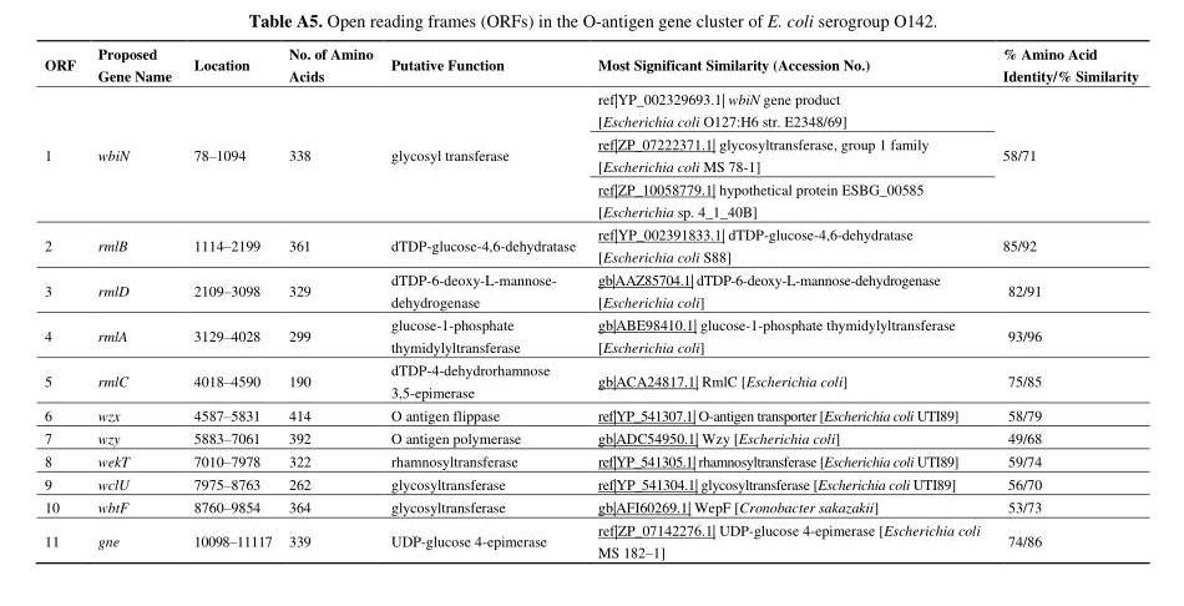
<table><thead><tr><td>ORF</td><td>Proposed Gene Name</td><td>Location</td><td>No. of Amino Acids</td><td>Putative Function</td><td>Most Significant Similarity (Accession No.)</td><td>% Amino Acid Identity/% Similarity</td></tr></thead><tbody><tr><td rowspan="3">1</td><td rowspan="3">wbiN</td><td rowspan="3">78–1094</td><td rowspan="3">338</td><td rowspan="3">glycosyl transferase</td><td>ref|YP_002329693.1| wbiN gene product [Escherichia coli O127:H6 str. E2348/69]</td><td rowspan="3">58/71</td></tr><tr><td>ref|ZP_07222371.1| glycosyltransferase, group 1 family [Escherichia coli MS 78-1]</td></tr><tr><td>ref|ZP_10058779.1| hypothetical protein ESBG_00585 [Escherichia sp. 4_1_40B]</td></tr><tr><td>2</td><td>rmlB</td><td>1114–2199</td><td>361</td><td>dTDP-glucose-4,6-dehydratase</td><td>ref|YP_002391833.1| dTDP-glucose-4,6-dehydratase [Escherichia coli S88]</td><td>85/92</td></tr><tr><td>3</td><td>rmlD</td><td>2109–3098</td><td>329</td><td>dTDP-6-deoxy-L-mannose- dehydrogenase</td><td>gb|AAZ85704.1| dTDP-6-deoxy-L-mannose-dehydrogenase [Escherichia coli]</td><td>82/91</td></tr><tr><td>4</td><td>rmlA</td><td>3129–4028</td><td>299</td><td>glucose-1-phosphate thymidylyltransferase</td><td>gb|ABE98410.1| glucose-1-phosphate thymidylyltransferase [Escherichia coli]</td><td>93/96</td></tr><tr><td>5</td><td>rmlC</td><td>4018–4590</td><td>190</td><td>dTDP-4-dehydrorhamnose 3,5-epimerase</td><td>gb|ACA24817.1| RmlC [Escherichia coli]</td><td>75/85</td></tr><tr><td>6</td><td>wzx</td><td>4587–5831</td><td>414</td><td>O antigen flippase</td><td>ref|YP_541307.1| O-antigen transporter [Escherichia coli UTI89]</td><td>58/79</td></tr><tr><td>7</td><td>wzy</td><td>5883–7061</td><td>392</td><td>O antigen polymerase</td><td>gb|ADC54950.1| Wzy [Escherichia coli]</td><td>49/68</td></tr><tr><td>8</td><td>wekT</td><td>7010–7978</td><td>322</td><td>rhamnosyltransferase</td><td>ref|YP_541305.1| rhamnosyltransferase [Escherichia coli UTI89]</td><td>59/74</td></tr><tr><td>9</td><td>wclU</td><td>7975–8763</td><td>262</td><td>glycosyltransferase</td><td>ref|YP_541304.1| glycosyltransferase [Escherichia coli UTI89]</td><td>56/70</td></tr><tr><td>10</td><td>wbtF</td><td>8760–9854</td><td>364</td><td>glycosyltransferase</td><td>gb|AFI60269.1| WepF [Cronobacter sakazakii]</td><td>53/73</td></tr><tr><td>11</td><td>gne</td><td>10098–11117</td><td>339</td><td>UDP-glucose 4-epimerase</td><td>ref|ZP_07142276.1| UDP-glucose 4-epimerase [Escherichia coli MS 182–1]</td><td>74/86</td></tr></tbody></table>